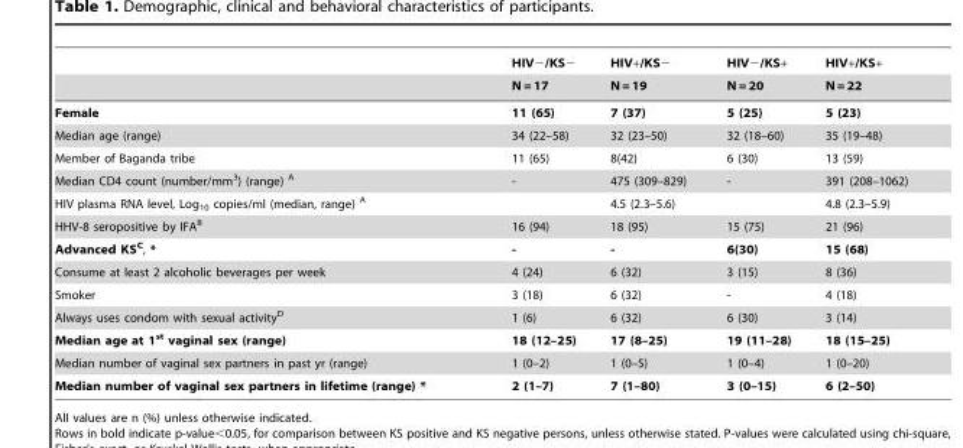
<table><thead><tr><td rowspan="2"></td><td rowspan="2">HIV−/KS− N = 17</td><td rowspan="2">HIV+/KS− N = 19</td><td rowspan="2">HIV−/KS+ N = 20</td><td rowspan="2">HIV+/KS+ N = 22</td></tr><tr></tr></thead><tbody><tr><td>Female</td><td>11 (65)</td><td>7 (37)</td><td>5 (25)</td><td>5 (23)</td></tr><tr><td>Median age (range)</td><td>34 (22–58)</td><td>32 (23–50)</td><td>32 (18–60)</td><td>35 (19–48)</td></tr><tr><td>Member of Baganda tribe</td><td>11 (65)</td><td>8(42)</td><td>6 (30)</td><td>13 (59)</td></tr><tr><td>Median CD4 count (number/mm<sup>3</sup>) (range) A</td><td>-</td><td>475 (309–829)</td><td>-</td><td>391 (208–1062)</td></tr><tr><td>HIV plasma RNA level, Log<sub>10</sub> copies/ml (median, range) A</td><td></td><td>4.5 (2.3–5.6)</td><td></td><td>4.8 (2.3–5.9)</td></tr><tr><td>HHV-8 seropositive by IFA<sup>B</sup></td><td>16 (94)</td><td>18 (95)</td><td>15 (75)</td><td>21 (96)</td></tr><tr><td>Advanced KSC, *</td><td>-</td><td>-</td><td>6(30)</td><td>15 (68)</td></tr><tr><td>Consume at least 2 alcoholic beverages per week</td><td>4 (24)</td><td>6 (32)</td><td>3 (15)</td><td>8 (36)</td></tr><tr><td>Smoker</td><td>3 (18)</td><td>6 (32)</td><td>-</td><td>4 (18)</td></tr><tr><td>Always uses condom with sexual activity<sup>D</sup></td><td>1 (6)</td><td>6 (32)</td><td>6 (30)</td><td>3 (14)</td></tr><tr><td>Median age at 1<sup>st</sup> vaginal sex (range)</td><td>18 (12–25)</td><td>17 (8–25)</td><td>19 (11–28)</td><td>18 (15–25)</td></tr><tr><td>Median number of vaginal sex partners in past yr (range)</td><td>1 (0–2)</td><td>1 (0–5)</td><td>1 (0–4)</td><td>1 (0–20)</td></tr><tr><td>Median number of vaginal sex partners in lifetime (range) *</td><td>2 (1–7)</td><td>7 (1–80)</td><td>3 (0–15)</td><td>6 (2–50)</td></tr></tbody></table>